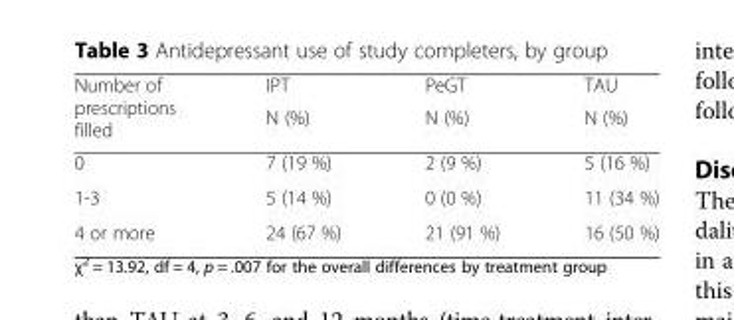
<table><thead><tr><td rowspan="2">Number of prescriptions filled</td><td rowspan="2">IPT N (%)</td><td rowspan="2">PeGT N (%)</td><td rowspan="2">TAU N (%)</td></tr><tr></tr></thead><tbody><tr><td>0</td><td>7 (19 %)</td><td>2 (9 %)</td><td>5 (16 %)</td></tr><tr><td>1-3</td><td>5 (14 %)</td><td>0 (0 %)</td><td>11 (34 %)</td></tr><tr><td>4 or more</td><td>24 (67 %)</td><td>21 (91 %)</td><td>16 (50 %)</td></tr></tbody></table>